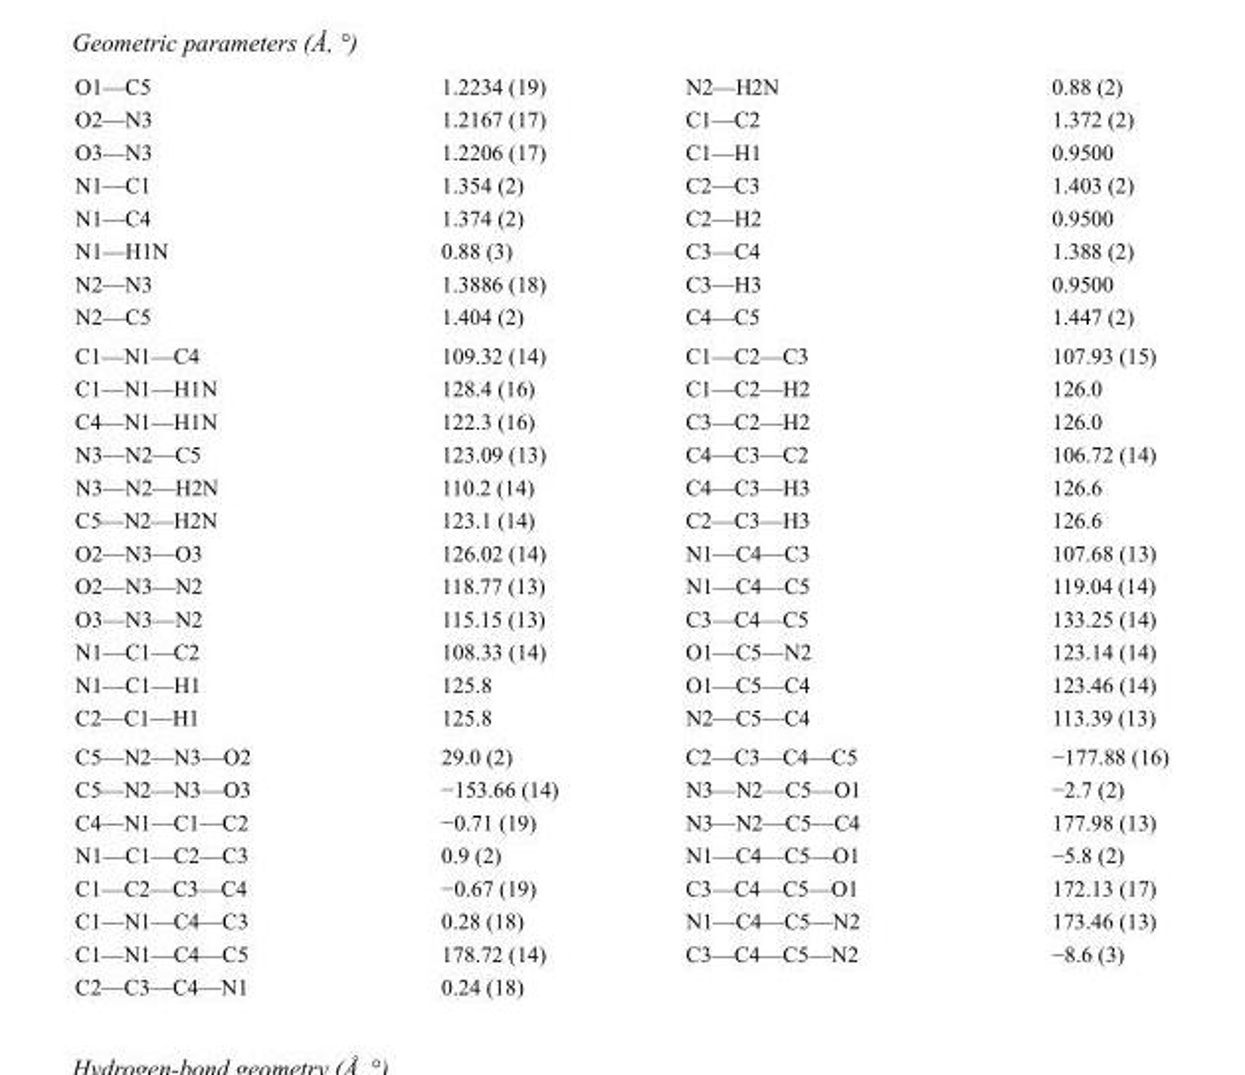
<table><tbody><tr><td>O1—C5</td><td>1.2234 (19)</td><td>N2—H2N</td><td>0.88 (2)</td></tr><tr><td>O2—N3</td><td>1.2167 (17)</td><td>C1—C2</td><td>1.372 (2)</td></tr><tr><td>O3—N3</td><td>1.2206 (17)</td><td>C1—H1</td><td>0.9500</td></tr><tr><td>N1—C1</td><td>1.354 (2)</td><td>C2—C3</td><td>1.403 (2)</td></tr><tr><td>N1—C4</td><td>1.374 (2)</td><td>C2—H2</td><td>0.9500</td></tr><tr><td>N1—H1N</td><td>0.88 (3)</td><td>C3—C4</td><td>1.388 (2)</td></tr><tr><td>N2—N3</td><td>1.3886 (18)</td><td>C3—H3</td><td>0.9500</td></tr><tr><td>N2—C5</td><td>1.404 (2)</td><td>C4—C5</td><td>1.447 (2)</td></tr><tr><td>C1—N1—C4</td><td>109.32 (14)</td><td>C1—C2—C3</td><td>107.93 (15)</td></tr><tr><td>C1—N1—H1N</td><td>128.4 (16)</td><td>C1—C2—H2</td><td>126.0</td></tr><tr><td>C4—N1—H1N</td><td>122.3 (16)</td><td>C3—C2—H2</td><td>126.0</td></tr><tr><td>N3—N2—C5</td><td>123.09 (13)</td><td>C4—C3—C2</td><td>106.72 (14)</td></tr><tr><td>N3—N2—H2N</td><td>110.2 (14)</td><td>C4—C3—H3</td><td>126.6</td></tr><tr><td>C5—N2—H2N</td><td>123.1 (14)</td><td>C2—C3—H3</td><td>126.6</td></tr><tr><td>O2—N3—O3</td><td>126.02 (14)</td><td>N1—C4—C3</td><td>107.68 (13)</td></tr><tr><td>O2—N3—N2</td><td>118.77 (13)</td><td>N1—C4—C5</td><td>119.04 (14)</td></tr><tr><td>O3—N3—N2</td><td>115.15 (13)</td><td>C3—C4—C5</td><td>133.25 (14)</td></tr><tr><td>N1—C1—C2</td><td>108.33 (14)</td><td>O1—C5—N2</td><td>123.14 (14)</td></tr><tr><td>N1—C1—H1</td><td>125.8</td><td>O1—C5—C4</td><td>123.46 (14)</td></tr><tr><td>C2—C1—H1</td><td>125.8</td><td>N2—C5—C4</td><td>113.39 (13)</td></tr><tr><td>C5—N2—N3—O2</td><td>29.0 (2)</td><td>C2—C3—C4—C5</td><td>−177.88 (16)</td></tr><tr><td>C5—N2—N3—O3</td><td>−153.66 (14)</td><td>N3—N2—C5—O1</td><td>−2.7 (2)</td></tr><tr><td>C4—N1—C1—C2</td><td>−0.71 (19)</td><td>N3—N2—C5—C4</td><td>177.98 (13)</td></tr><tr><td>N1—C1—C2—C3</td><td>0.9 (2)</td><td>N1—C4—C5—O1</td><td>−5.8 (2)</td></tr><tr><td>C1—C2—C3—C4</td><td>−0.67 (19)</td><td>C3—C4—C5—O1</td><td>172.13 (17)</td></tr><tr><td>C1—N1—C4—C3</td><td>0.28 (18)</td><td>N1—C4—C5—N2</td><td>173.46 (13)</td></tr><tr><td>C1—N1—C4—C5</td><td>178.72 (14)</td><td>C3—C4—C5—N2</td><td>−8.6 (3)</td></tr><tr><td>C2—C3—C4—N1</td><td>0.24 (18)</td><td></td><td></td></tr></tbody></table>